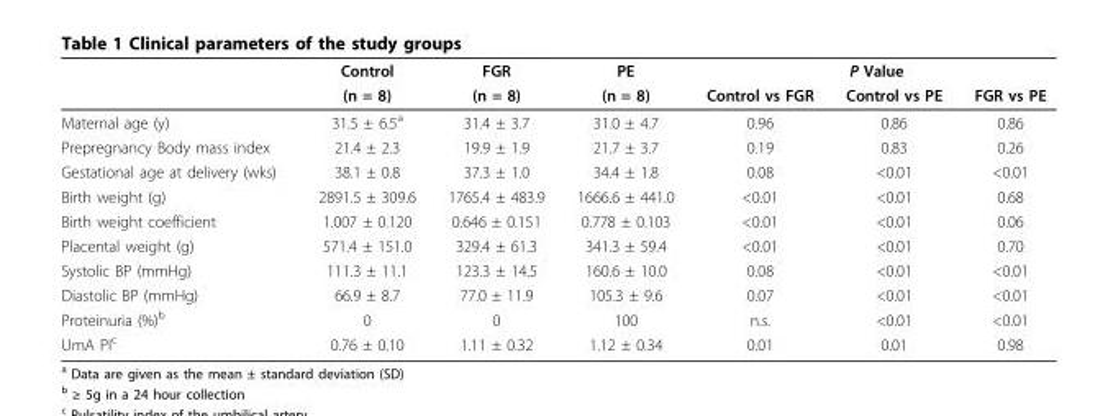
<table><thead><tr><td rowspan="2"></td><td rowspan="2">Control (n = 8)</td><td rowspan="2">FGR (n = 8)</td><td rowspan="2">PE (n = 8)</td><td colspan="3">P Value</td></tr><tr><td>Control vs FGR</td><td>Control vs PE</td><td>FGR vs PE</td></tr></thead><tbody><tr><td>Maternal age (y)</td><td>31.5 ± 6.5<sup>a</sup></td><td>31.4 ± 3.7</td><td>31.0 ± 4.7</td><td>0.96</td><td>0.86</td><td>0.86</td></tr><tr><td>Prepregnancy Body mass index</td><td>21.4 ± 2.3</td><td>19.9 ± 1.9</td><td>21.7 ± 3.7</td><td>0.19</td><td>0.83</td><td>0.26</td></tr><tr><td>Gestational age at delivery (wks)</td><td>38.1 ± 0.8</td><td>37.3 ± 1.0</td><td>34.4 ± 1.8</td><td>0.08</td><td>&lt;0.01</td><td>&lt;0.01</td></tr><tr><td>Birth weight (g)</td><td>2891.5 ± 309.6</td><td>1765.4 ± 483.9</td><td>1666.6 ± 441.0</td><td>&lt;0.01</td><td>&lt;0.01</td><td>0.68</td></tr><tr><td>Birth weight coefficient</td><td>1.007 ± 0.120</td><td>0.646 ± 0.151</td><td>0.778 ± 0.103</td><td>&lt;0.01</td><td>&lt;0.01</td><td>0.06</td></tr><tr><td>Placental weight (g)</td><td>571.4 ± 151.0</td><td>329.4 ± 61.3</td><td>341.3 ± 59.4</td><td>&lt;0.01</td><td>&lt;0.01</td><td>0.70</td></tr><tr><td>Systolic BP (mmHg)</td><td>111.3 ± 11.1</td><td>123.3 ± 14.5</td><td>160.6 ± 10.0</td><td>0.08</td><td>&lt;0.01</td><td>&lt;0.01</td></tr><tr><td>Diastolic BP (mmHg)</td><td>66.9 ± 8.7</td><td>77.0 ± 11.9</td><td>105.3 ± 9.6</td><td>0.07</td><td>&lt;0.01</td><td>&lt;0.01</td></tr><tr><td>Proteinuria (%)<sup>b</sup></td><td>0</td><td>0</td><td>100</td><td>n.s.</td><td>&lt;0.01</td><td>&lt;0.01</td></tr><tr><td>UmA PI<sup>c</sup></td><td>0.76 ± 0.10</td><td>1.11 ± 0.32</td><td>1.12 ± 0.34</td><td>0.01</td><td>0.01</td><td>0.98</td></tr></tbody></table>